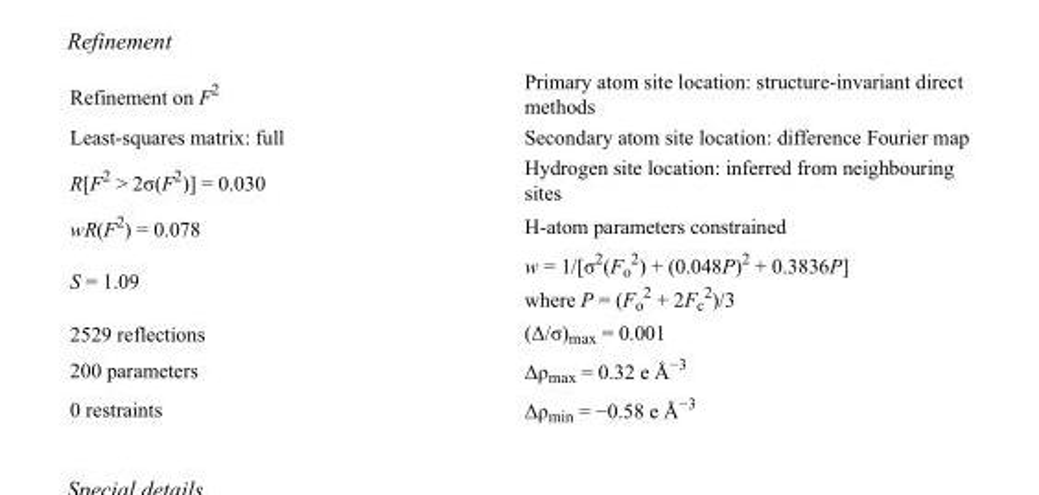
<table><tbody><tr><td>Refinement on F<sup>2</sup></td><td>Primary atom site location: structure-invariant direct methods</td></tr><tr><td>Least-squares matrix: full</td><td>Secondary atom site location: difference Fourier map</td></tr><tr><td>R[F<sup>2</sup> &gt; 2σ(F<sup>2</sup>)] = 0.030</td><td>Hydrogen site location: inferred from neighbouring sites</td></tr><tr><td>wR(F<sup>2</sup>) = 0.078</td><td>H-atom parameters constrained</td></tr><tr><td>S = 1.09</td><td>w = 1/[σ<sup>2</sup>(F<sub>o</sub> <sup>2</sup>) + (0.048P)<sup>2</sup> + 0.3836P] where P = (F<sub>o</sub> <sup>2</sup> + 2F<sub>c</sub> <sup>2</sup>)/3</td></tr><tr><td>2529 reflections</td><td>(Δ/σ)<sub>max</sub> = 0.001</td></tr><tr><td>200 parameters</td><td>Δρ<sub>max</sub> = 0.32 e Å<sup>−3</sup></td></tr><tr><td>0 restraints</td><td>Δρ<sub>min</sub> = −0.58 e Å<sup>−3</sup></td></tr></tbody></table>